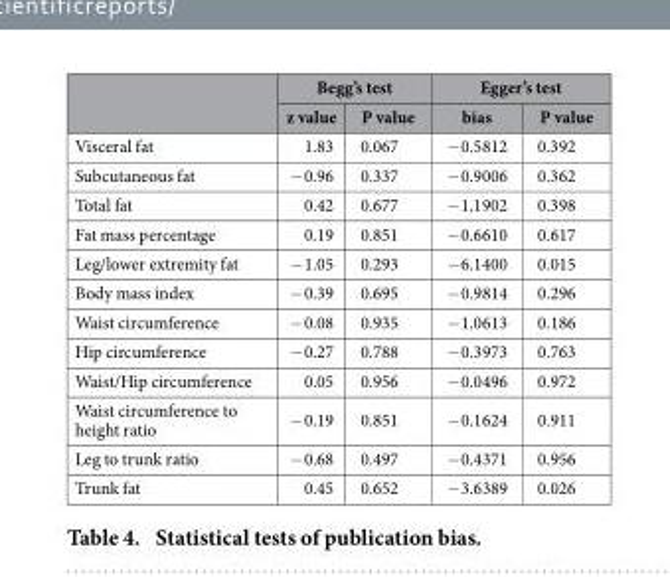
<table><thead><tr><td rowspan="2"></td><td colspan="2">Begg’s test</td><td colspan="2">Egger’s test</td></tr><tr><td>z value</td><td>P value</td><td>bias</td><td>P value</td></tr></thead><tbody><tr><td>Visceral fat</td><td>1.83</td><td>0.067</td><td>− 0.5812</td><td>0.392</td></tr><tr><td>Subcutaneous fat</td><td>− 0.96</td><td>0.337</td><td>− 0.9006</td><td>0.362</td></tr><tr><td>Total fat</td><td>0.42</td><td>0.677</td><td>− 1.1902</td><td>0.398</td></tr><tr><td>Fat mass percentage</td><td>0.19</td><td>0.851</td><td>− 0.6610</td><td>0.617</td></tr><tr><td>Leg/lower extremity fat</td><td>− 1.05</td><td>0.293</td><td>− 6.1400</td><td>0.015</td></tr><tr><td>Body mass index</td><td>− 0.39</td><td>0.695</td><td>− 0.9814</td><td>0.296</td></tr><tr><td>Waist circumference</td><td>− 0.08</td><td>0.935</td><td>− 1.0613</td><td>0.186</td></tr><tr><td>Hip circumference</td><td>− 0.27</td><td>0.788</td><td>− 0.3973</td><td>0.763</td></tr><tr><td>Waist/Hip circumference</td><td>0.05</td><td>0.956</td><td>− 0.0496</td><td>0.972</td></tr><tr><td>Waist circumference to height ratio</td><td>− 0.19</td><td>0.851</td><td>− 0.1624</td><td>0.911</td></tr><tr><td>Leg to trunk ratio</td><td>− 0.68</td><td>0.497</td><td>− 0.4371</td><td>0.956</td></tr><tr><td>Trunk fat</td><td>0.45</td><td>0.652</td><td>− 3.6389</td><td>0.026</td></tr></tbody></table>